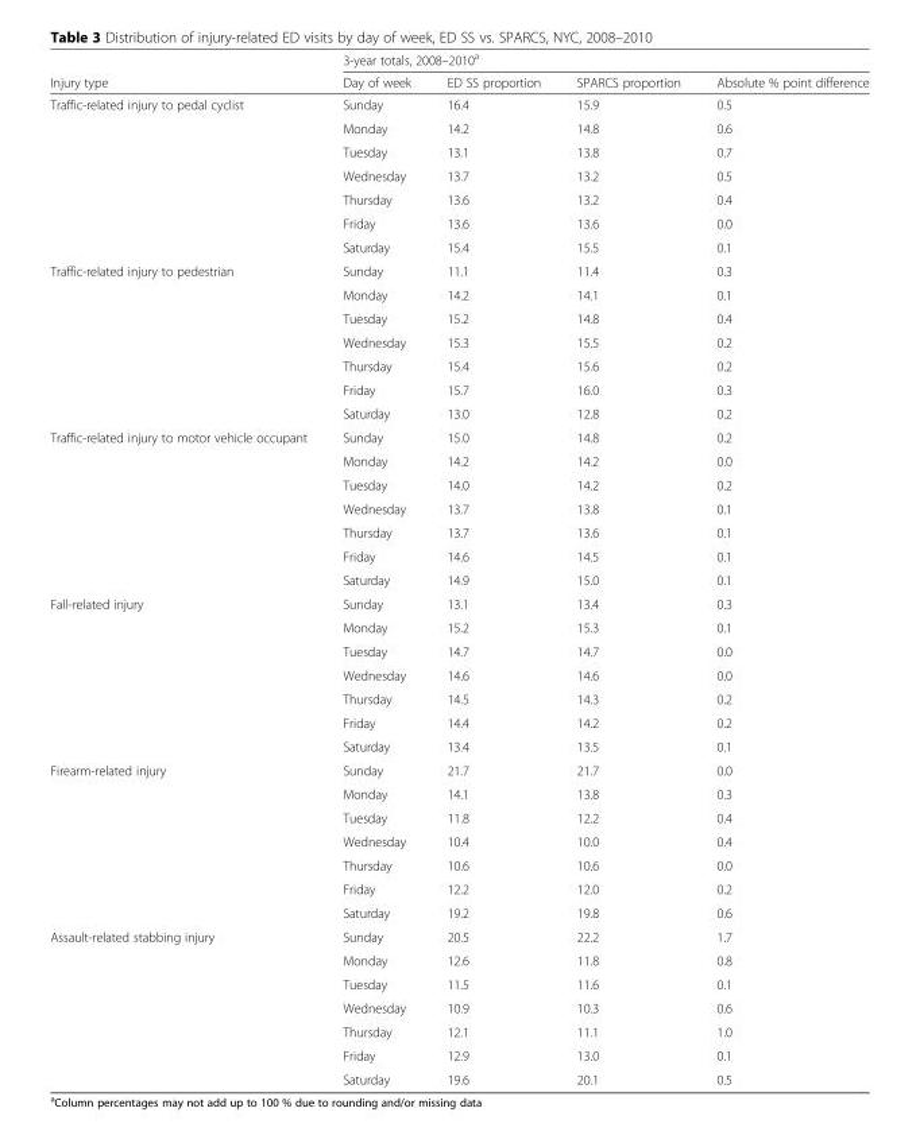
<table><thead><tr><td rowspan="2">Injury type</td><td colspan="4">3-year totals, 2008–2010<sup>a</sup></td></tr><tr><td>Day of week</td><td>ED SS proportion</td><td>SPARCS proportion</td><td>Absolute % point difference</td></tr></thead><tbody><tr><td rowspan="7">Traffic-related injury to pedal cyclist</td><td>Sunday</td><td>16.4</td><td>15.9</td><td>0.5</td></tr><tr><td>Monday</td><td>14.2</td><td>14.8</td><td>0.6</td></tr><tr><td>Tuesday</td><td>13.1</td><td>13.8</td><td>0.7</td></tr><tr><td>Wednesday</td><td>13.7</td><td>13.2</td><td>0.5</td></tr><tr><td>Thursday</td><td>13.6</td><td>13.2</td><td>0.4</td></tr><tr><td>Friday</td><td>13.6</td><td>13.6</td><td>0.0</td></tr><tr><td>Saturday</td><td>15.4</td><td>15.5</td><td>0.1</td></tr><tr><td rowspan="7">Traffic-related injury to pedestrian</td><td>Sunday</td><td>11.1</td><td>11.4</td><td>0.3</td></tr><tr><td>Monday</td><td>14.2</td><td>14.1</td><td>0.1</td></tr><tr><td>Tuesday</td><td>15.2</td><td>14.8</td><td>0.4</td></tr><tr><td>Wednesday</td><td>15.3</td><td>15.5</td><td>0.2</td></tr><tr><td>Thursday</td><td>15.4</td><td>15.6</td><td>0.2</td></tr><tr><td>Friday</td><td>15.7</td><td>16.0</td><td>0.3</td></tr><tr><td>Saturday</td><td>13.0</td><td>12.8</td><td>0.2</td></tr><tr><td rowspan="7">Traffic-related injury to motor vehicle occupant</td><td>Sunday</td><td>15.0</td><td>14.8</td><td>0.2</td></tr><tr><td>Monday</td><td>14.2</td><td>14.2</td><td>0.0</td></tr><tr><td>Tuesday</td><td>14.0</td><td>14.2</td><td>0.2</td></tr><tr><td>Wednesday</td><td>13.7</td><td>13.8</td><td>0.1</td></tr><tr><td>Thursday</td><td>13.7</td><td>13.6</td><td>0.1</td></tr><tr><td>Friday</td><td>14.6</td><td>14.5</td><td>0.1</td></tr><tr><td>Saturday</td><td>14.9</td><td>15.0</td><td>0.1</td></tr><tr><td rowspan="7">Fall-related injury</td><td>Sunday</td><td>13.1</td><td>13.4</td><td>0.3</td></tr><tr><td>Monday</td><td>15.2</td><td>15.3</td><td>0.1</td></tr><tr><td>Tuesday</td><td>14.7</td><td>14.7</td><td>0.0</td></tr><tr><td>Wednesday</td><td>14.6</td><td>14.6</td><td>0.0</td></tr><tr><td>Thursday</td><td>14.5</td><td>14.3</td><td>0.2</td></tr><tr><td>Friday</td><td>14.4</td><td>14.2</td><td>0.2</td></tr><tr><td>Saturday</td><td>13.4</td><td>13.5</td><td>0.1</td></tr><tr><td rowspan="7">Firearm-related injury</td><td>Sunday</td><td>21.7</td><td>21.7</td><td>0.0</td></tr><tr><td>Monday</td><td>14.1</td><td>13.8</td><td>0.3</td></tr><tr><td>Tuesday</td><td>11.8</td><td>12.2</td><td>0.4</td></tr><tr><td>Wednesday</td><td>10.4</td><td>10.0</td><td>0.4</td></tr><tr><td>Thursday</td><td>10.6</td><td>10.6</td><td>0.0</td></tr><tr><td>Friday</td><td>12.2</td><td>12.0</td><td>0.2</td></tr><tr><td>Saturday</td><td>19.2</td><td>19.8</td><td>0.6</td></tr><tr><td rowspan="7">Assault-related stabbing injury</td><td>Sunday</td><td>20.5</td><td>22.2</td><td>1.7</td></tr><tr><td>Monday</td><td>12.6</td><td>11.8</td><td>0.8</td></tr><tr><td>Tuesday</td><td>11.5</td><td>11.6</td><td>0.1</td></tr><tr><td>Wednesday</td><td>10.9</td><td>10.3</td><td>0.6</td></tr><tr><td>Thursday</td><td>12.1</td><td>11.1</td><td>1.0</td></tr><tr><td>Friday</td><td>12.9</td><td>13.0</td><td>0.1</td></tr><tr><td>Saturday</td><td>19.6</td><td>20.1</td><td>0.5</td></tr></tbody></table>